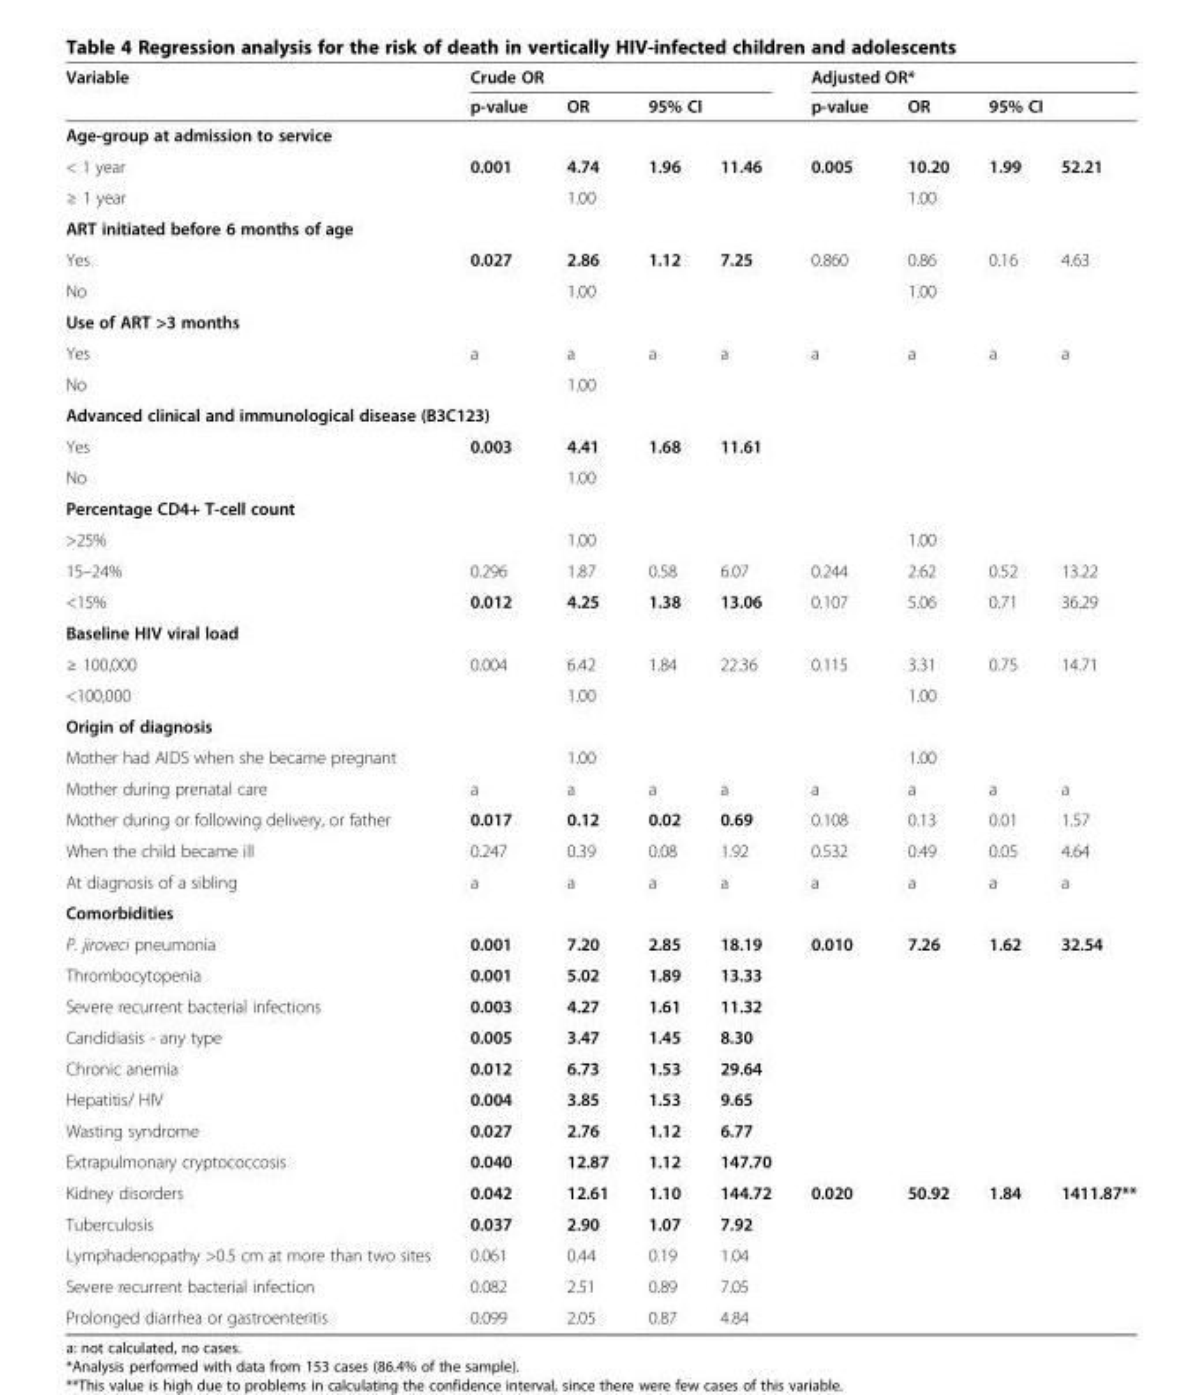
<table><thead><tr><td rowspan="2">Variable</td><td colspan="4">Crude OR</td><td colspan="4">Adjusted OR*</td></tr><tr><td>p-value</td><td>OR</td><td colspan="2">95% CI</td><td>p-value</td><td>OR</td><td colspan="2">95% CI</td></tr><tr><td colspan="9">Age-group at admission to service</td></tr><tr><td>&lt; 1 year</td><td>0.001</td><td>4.74</td><td>1.96</td><td>11.46</td><td>0.005</td><td>10.20</td><td>1.99</td><td>52.21</td></tr></thead><tbody><tr><td>≥ 1 year</td><td></td><td>1.00</td><td></td><td></td><td></td><td>1.00</td><td></td><td></td></tr><tr><td colspan="9">ART initiated before 6 months of age</td></tr><tr><td>Yes</td><td>0.027</td><td>2.86</td><td>1.12</td><td>7.25</td><td>0.860</td><td>0.86</td><td>0.16</td><td>4.63</td></tr><tr><td>No</td><td></td><td>1.00</td><td></td><td></td><td></td><td>1.00</td><td></td><td></td></tr><tr><td colspan="9">Use of ART &gt;3 months</td></tr><tr><td>Yes</td><td>a</td><td>a</td><td>a</td><td>a</td><td>a</td><td>a</td><td>a</td><td>a</td></tr><tr><td>No</td><td></td><td>1.00</td><td></td><td></td><td></td><td></td><td></td><td></td></tr><tr><td colspan="9">Advanced clinical and immunological disease (B3C123)</td></tr><tr><td>Yes</td><td>0.003</td><td>4.41</td><td>1.68</td><td>11.61</td><td></td><td></td><td></td><td></td></tr><tr><td>No</td><td></td><td>1.00</td><td></td><td></td><td></td><td></td><td></td><td></td></tr><tr><td colspan="9">Percentage CD4+ T-cell count</td></tr><tr><td>&gt;25%</td><td></td><td>1.00</td><td></td><td></td><td></td><td>1.00</td><td></td><td></td></tr><tr><td>15–24%</td><td>0.296</td><td>1.87</td><td>0.58</td><td>6.07</td><td>0.244</td><td>2.62</td><td>0.52</td><td>13.22</td></tr><tr><td>&lt;15%</td><td>0.012</td><td>4.25</td><td>1.38</td><td>13.06</td><td>0.107</td><td>5.06</td><td>0.71</td><td>36.29</td></tr><tr><td colspan="9">Baseline HIV viral load</td></tr><tr><td>≥ 100,000</td><td>0.004</td><td>6.42</td><td>1.84</td><td>22.36</td><td>0.115</td><td>3.31</td><td>0.75</td><td>14.71</td></tr><tr><td>&lt;100,000</td><td></td><td>1.00</td><td></td><td></td><td></td><td>1.00</td><td></td><td></td></tr><tr><td colspan="9">Origin of diagnosis</td></tr><tr><td>Mother had AIDS when she became pregnant</td><td></td><td>1.00</td><td></td><td></td><td></td><td>1.00</td><td></td><td></td></tr><tr><td>Mother during prenatal care</td><td>a</td><td>a</td><td>a</td><td>a</td><td>a</td><td>a</td><td>a</td><td>a</td></tr><tr><td>Mother during or following delivery, or father</td><td>0.017</td><td>0.12</td><td>0.02</td><td>0.69</td><td>0.108</td><td>0.13</td><td>0.01</td><td>1.57</td></tr><tr><td>When the child became ill</td><td>0.247</td><td>0.39</td><td>0.08</td><td>1.92</td><td>0.532</td><td>0.49</td><td>0.05</td><td>4.64</td></tr><tr><td>At diagnosis of a sibling</td><td>a</td><td>a</td><td>a</td><td>a</td><td>a</td><td>a</td><td>a</td><td>a</td></tr><tr><td colspan="9">Comorbidities</td></tr><tr><td>P. jiroveci pneumonia</td><td>0.001</td><td>7.20</td><td>2.85</td><td>18.19</td><td>0.010</td><td>7.26</td><td>1.62</td><td>32.54</td></tr><tr><td>Thrombocytopenia</td><td>0.001</td><td>5.02</td><td>1.89</td><td>13.33</td><td></td><td></td><td></td><td></td></tr><tr><td>Severe recurrent bacterial infections</td><td>0.003</td><td>4.27</td><td>1.61</td><td>11.32</td><td></td><td></td><td></td><td></td></tr><tr><td>Candidiasis - any type</td><td>0.005</td><td>3.47</td><td>1.45</td><td>8.30</td><td></td><td></td><td></td><td></td></tr><tr><td>Chronic anemia</td><td>0.012</td><td>6.73</td><td>1.53</td><td>29.64</td><td></td><td></td><td></td><td></td></tr><tr><td>Hepatitis/ HIV</td><td>0.004</td><td>3.85</td><td>1.53</td><td>9.65</td><td></td><td></td><td></td><td></td></tr><tr><td>Wasting syndrome</td><td>0.027</td><td>2.76</td><td>1.12</td><td>6.77</td><td></td><td></td><td></td><td></td></tr><tr><td>Extrapulmonary cryptococcosis</td><td>0.040</td><td>12.87</td><td>1.12</td><td>147.70</td><td></td><td></td><td></td><td></td></tr><tr><td>Kidney disorders</td><td>0.042</td><td>12.61</td><td>1.10</td><td>144.72</td><td>0.020</td><td>50.92</td><td>1.84</td><td>1411.87**</td></tr><tr><td>Tuberculosis</td><td>0.037</td><td>2.90</td><td>1.07</td><td>7.92</td><td></td><td></td><td></td><td></td></tr><tr><td>Lymphadenopathy &gt;0.5 cm at more than two sites</td><td>0.061</td><td>0.44</td><td>0.19</td><td>1.04</td><td></td><td></td><td></td><td></td></tr><tr><td>Severe recurrent bacterial infection</td><td>0.082</td><td>2.51</td><td>0.89</td><td>7.05</td><td></td><td></td><td></td><td></td></tr><tr><td>Prolonged diarrhea or gastroenteritis</td><td>0.099</td><td>2.05</td><td>0.87</td><td>4.84</td><td></td><td></td><td></td><td></td></tr></tbody></table>